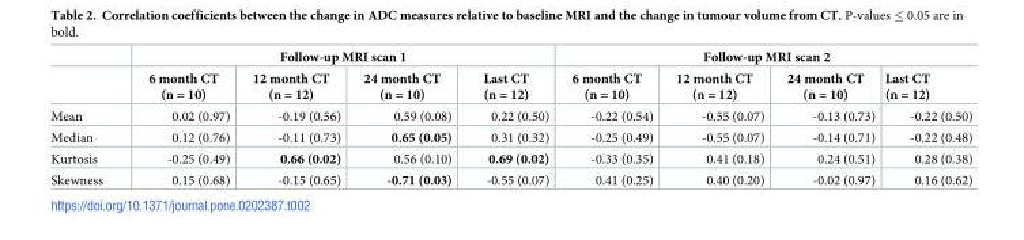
<table><thead><tr><td rowspan="2"></td><td colspan="4">Follow-up MRI scan 1</td><td colspan="4">Follow-up MRI scan 2</td></tr><tr><td>6 month CT (n = 10)</td><td>12 month CT (n = 12)</td><td>24 month CT (n = 10)</td><td>Last CT (n = 12)</td><td>6 month CT (n = 10)</td><td>12 month CT (n = 12)</td><td>24 month CT (n = 10)</td><td>Last CT (n = 12)</td></tr></thead><tbody><tr><td>Mean</td><td>0.02 (0.97)</td><td>-0.19 (0.56)</td><td>0.59 (0.08)</td><td>0.22 (0.50)</td><td>-0.22 (0.54)</td><td>-0.55 (0.07)</td><td>-0.13 (0.73)</td><td>-0.22 (0.50)</td></tr><tr><td>Median</td><td>0.12 (0.76)</td><td>-0.11 (0.73)</td><td>0.65 (0.05)</td><td>0.31 (0.32)</td><td>-0.25 (0.49)</td><td>-0.55 (0.07)</td><td>-0.14 (0.71)</td><td>-0.22 (0.48)</td></tr><tr><td>Kurtosis</td><td>-0.25 (0.49)</td><td>0.66 (0.02)</td><td>0.56 (0.10)</td><td>0.69 (0.02)</td><td>-0.33 (0.35)</td><td>0.41 (0.18)</td><td>0.24 (0.51)</td><td>0.28 (0.38)</td></tr><tr><td>Skewness</td><td>0.15 (0.68)</td><td>-0.15 (0.65)</td><td>-0.71 (0.03)</td><td>-0.55 (0.07)</td><td>0.41 (0.25)</td><td>0.40 (0.20)</td><td>-0.02 (0.97)</td><td>0.16 (0.62)</td></tr></tbody></table>